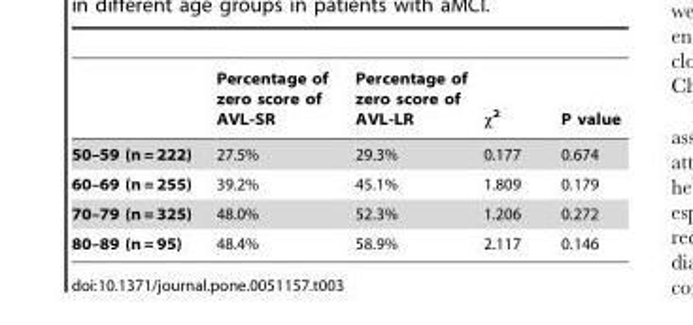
<table><thead><tr><td></td><td>Percentage of zero score of AVL-SR</td><td>Percentage of zero score of AVL-LR</td><td>x2</td><td>P value</td></tr></thead><tbody><tr><td>50–59 (n = 222)</td><td>27.5%</td><td>29.3%</td><td>0.177</td><td>0.674</td></tr><tr><td>60–69 (n = 255)</td><td>39.2%</td><td>45.1%</td><td>1.809</td><td>0.179</td></tr><tr><td>70–79 (n = 325)</td><td>48.0%</td><td>52.3%</td><td>1.206</td><td>0.272</td></tr><tr><td>80–89 (n = 95)</td><td>48.4%</td><td>58.9%</td><td>2.117</td><td>0.146</td></tr></tbody></table>